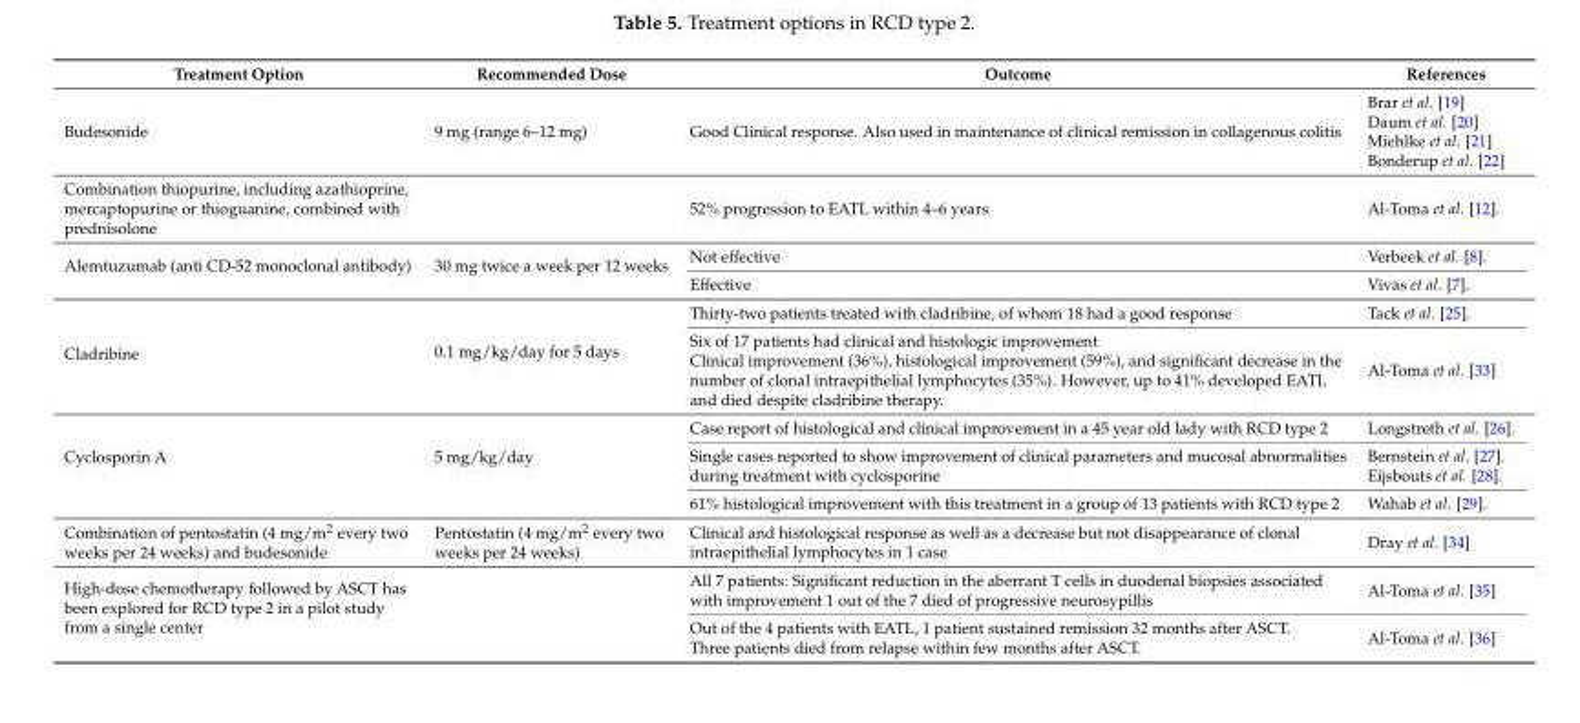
<table><thead><tr><td>Treatment Option</td><td>Recommended Dose</td><td>Outcome</td><td>References</td></tr></thead><tbody><tr><td>Budesonide</td><td>9 mg (range 6–12 mg)</td><td>Good Clinical response. Also used in maintenance of clinical remission in collagenous colitis</td><td>Brar et al. [19] Daum et al. [20] Miehlke et al. [21] Bonderup et al. [22]</td></tr><tr><td>Combination thiopurine, including azathioprine, mercaptopurine or thioguanine, combined with prednisolone</td><td></td><td>52% progression to EATL within 4–6 years</td><td>Al-Toma et al. [12].</td></tr><tr><td rowspan="2">Alemtuzumab (anti CD-52 monoclonal antibody)</td><td rowspan="2">30 mg twice a week per 12 weeks</td><td>Not effective</td><td>Verbeek et al. [8].</td></tr><tr><td>Effective</td><td>Vivas et al. [7].</td></tr><tr><td rowspan="2">Cladribine</td><td rowspan="2">0.1 mg/kg/day for 5 days</td><td>Thirty-two patients treated with cladribine, of whom 18 had a good response</td><td>Tack et al. [25].</td></tr><tr><td>Six of 17 patients had clinical and histologic improvement Clinical improvement (36%), histological improvement (59%), and significant decrease in the number of clonal intraepithelial lymphocytes (35%). However, up to 41% developed EATL and died despite cladribine therapy.</td><td>Al-Toma et al. [33]</td></tr><tr><td rowspan="3">Cyclosporin A</td><td rowspan="3">5 mg/kg/day</td><td>Case report of histological and clinical improvement in a 45 year old lady with RCD type 2</td><td>Longstreth et al. [26].</td></tr><tr><td>Single cases reported to show improvement of clinical parameters and mucosal abnormalities during treatment with cyclosporine</td><td>Bernstein et al. [27]. Eijsbouts et al. [28].</td></tr><tr><td>61% histological improvement with this treatment in a group of 13 patients with RCD type 2</td><td>Wahab et al. [29].</td></tr><tr><td>Combination of pentostatin (4 mg/m<sup>2</sup> every two weeks per 24 weeks) and budesonide</td><td>Pentostatin (4 mg/m<sup>2</sup> every two weeks per 24 weeks)</td><td>Clinical and histological response as well as a decrease but not disappearance of clonal intraepithelial lymphocytes in 1 case</td><td>Dray et al. [34]</td></tr><tr><td rowspan="2">High-dose chemotherapy followed by ASCT has been explored for RCD type 2 in a pilot study from a single center</td><td rowspan="2"></td><td>All 7 patients: Significant reduction in the aberrant T cells in duodenal biopsies associated with improvement 1 out of the 7 died of progressive neurosypillis</td><td>Al-Toma et al. [35]</td></tr><tr><td>Out of the 4 patients with EATL, 1 patient sustained remission 32 months after ASCT. Three patients died from relapse within few months after ASCT.</td><td>Al-Toma et al. [36]</td></tr></tbody></table>